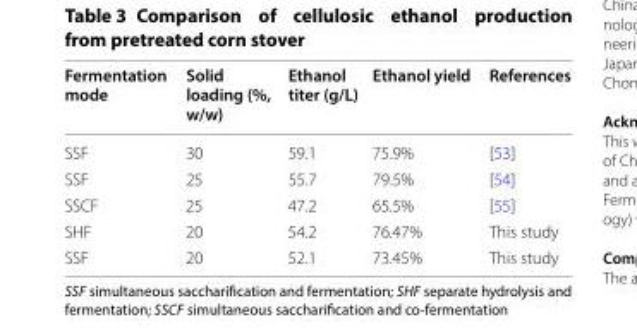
<table><thead><tr><td>Fermentation mode</td><td>Solid loading (%, w/w)</td><td>Ethanol titer (g/L)</td><td>Ethanol yield</td><td>References</td></tr></thead><tbody><tr><td>SSF</td><td>30</td><td>59.1</td><td>75.9%</td><td>[53]</td></tr><tr><td>SSF</td><td>25</td><td>55.7</td><td>79.5%</td><td>[54]</td></tr><tr><td>SSCF</td><td>25</td><td>47.2</td><td>65.5%</td><td>[55]</td></tr><tr><td>SHF</td><td>20</td><td>54.2</td><td>76.47%</td><td>This study</td></tr><tr><td>SSF</td><td>20</td><td>52.1</td><td>73.45%</td><td>This study</td></tr></tbody></table>